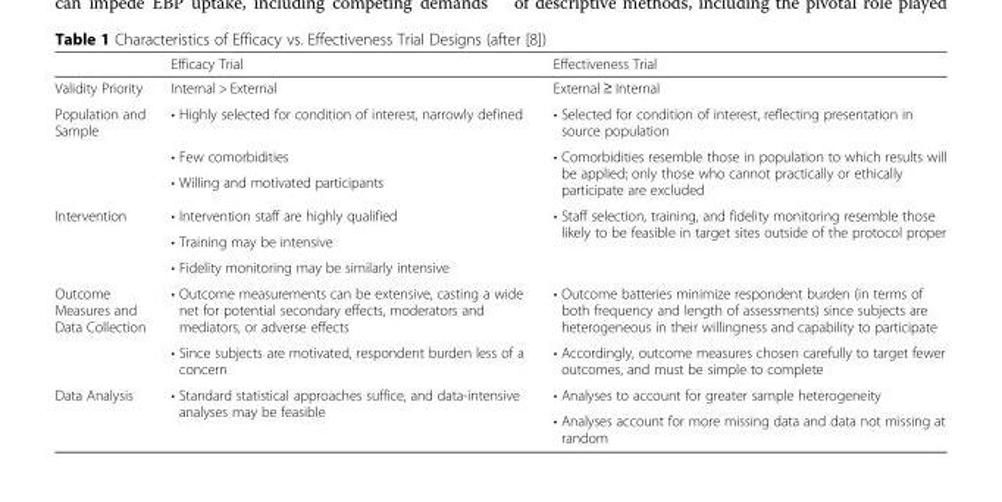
<table><thead><tr><td></td><td>Efficacy Trial</td><td>Effectiveness Trial</td></tr></thead><tbody><tr><td>Validity Priority</td><td>Internal &gt; External</td><td>External ≥ Internal</td></tr><tr><td rowspan="3">Population and Sample</td><td>• Highly selected for condition of interest, narrowly defined</td><td>• Selected for condition of interest, reflecting presentation in source population</td></tr><tr><td>• Few comorbidities</td><td rowspan="2">• Comorbidities resemble those in population to which results will be applied; only those who cannot practically or ethically participate are excluded</td></tr><tr><td>• Willing and motivated participants</td></tr><tr><td rowspan="3">Intervention</td><td>• Intervention staff are highly qualified</td><td rowspan="3">• Staff selection, training, and fidelity monitoring resemble those likely to be feasible in target sites outside of the protocol proper</td></tr><tr><td>• Training may be intensive</td></tr><tr><td>• Fidelity monitoring may be similarly intensive</td></tr><tr><td rowspan="2">Outcome Measures and Data Collection</td><td>• Outcome measurements can be extensive, casting a wide net for potential secondary effects, moderators and mediators, or adverse effects</td><td>• Outcome batteries minimize respondent burden (in terms of both frequency and length of assessments) since subjects are heterogeneous in their willingness and capability to participate</td></tr><tr><td>• Since subjects are motivated, respondent burden less of a concern</td><td>• Accordingly, outcome measures chosen carefully to target fewer outcomes, and must be simple to complete</td></tr><tr><td rowspan="2">Data Analysis</td><td rowspan="2">• Standard statistical approaches suffice, and data-intensive analyses may be feasible</td><td>• Analyses to account for greater sample heterogeneity</td></tr><tr><td>• Analyses account for more missing data and data not missing at random</td></tr></tbody></table>